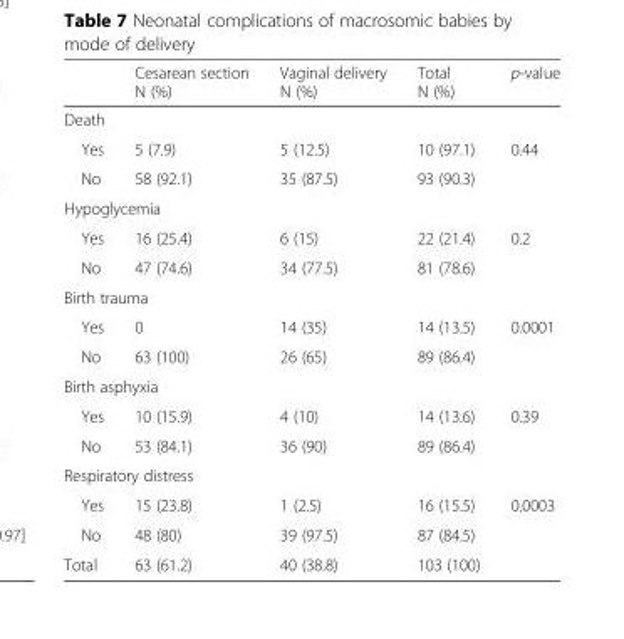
<table><thead><tr><td></td><td>Cesarean section N (%)</td><td>Vaginal delivery N (%)</td><td>Total N (%)</td><td>p-value</td></tr></thead><tbody><tr><td colspan="5">Death</td></tr><tr><td>Yes</td><td>5 (7.9)</td><td>5 (12.5)</td><td>10 (97.1)</td><td rowspan="2">0.44</td></tr><tr><td>No</td><td>58 (92.1)</td><td>35 (87.5)</td><td>93 (90.3)</td></tr><tr><td colspan="5">Hypoglycemia</td></tr><tr><td>Yes</td><td>16 (25.4)</td><td>6 (15)</td><td>22 (21.4)</td><td rowspan="2">0.2</td></tr><tr><td>No</td><td>47 (74.6)</td><td>34 (77.5)</td><td>81 (78.6)</td></tr><tr><td colspan="5">Birth trauma</td></tr><tr><td>Yes</td><td>0</td><td>14 (35)</td><td>14 (13.5)</td><td rowspan="2">0.0001</td></tr><tr><td>No</td><td>63 (100)</td><td>26 (65)</td><td>89 (86.4)</td></tr><tr><td colspan="5">Birth asphyxia</td></tr><tr><td>Yes</td><td>10 (15.9)</td><td>4 (10)</td><td>14 (13.6)</td><td rowspan="2">0.39</td></tr><tr><td>No</td><td>53 (84.1)</td><td>36 (90)</td><td>89 (86.4)</td></tr><tr><td colspan="5">Respiratory distress</td></tr><tr><td>Yes</td><td>15 (23.8)</td><td>1 (2.5)</td><td>16 (15.5)</td><td rowspan="2">0.0003</td></tr><tr><td>No</td><td>48 (80)</td><td>39 (97.5)</td><td>87 (84.5)</td></tr><tr><td>Total</td><td>63 (61.2)</td><td>40 (38.8)</td><td>103 (100)</td><td></td></tr></tbody></table>